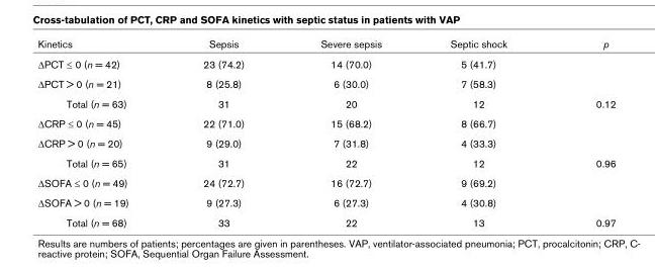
<table><thead><tr><td>Kinetics</td><td>Sepsis</td><td>Severe sepsis</td><td>Septic shock</td><td>p</td></tr></thead><tbody><tr><td>∆PCT ≤ 0 (n = 42)</td><td>23 (74.2)</td><td>14 (70.0)</td><td>5 (41.7)</td><td></td></tr><tr><td>∆PCT &gt; 0 (n = 21)</td><td>8 (25.8)</td><td>6 (30.0)</td><td>7 (58.3)</td><td></td></tr><tr><td>Total (n = 63)</td><td>31</td><td>20</td><td>12</td><td>0.12</td></tr><tr><td>∆CRP ≤ 0 (n = 45)</td><td>22 (71.0)</td><td>15 (68.2)</td><td>8 (66.7)</td><td></td></tr><tr><td>∆CRP &gt; 0 (n = 20)</td><td>9 (29.0)</td><td>7 (31.8)</td><td>4 (33.3)</td><td></td></tr><tr><td>Total (n = 65)</td><td>31</td><td>22</td><td>12</td><td>0.96</td></tr><tr><td>∆SOFA ≤ 0 (n = 49)</td><td>24 (72.7)</td><td>16 (72.7)</td><td>9 (69.2)</td><td></td></tr><tr><td>∆SOFA &gt; 0 (n = 19)</td><td>9 (27.3)</td><td>6 (27.3)</td><td>4 (30.8)</td><td></td></tr><tr><td>Total (n = 68)</td><td>33</td><td>22</td><td>13</td><td>0.97</td></tr></tbody></table>